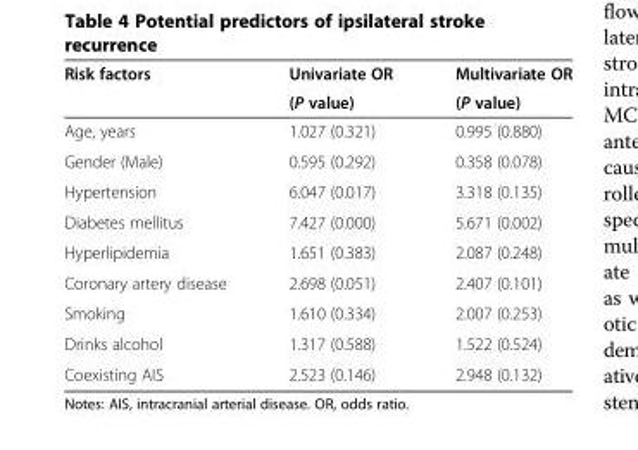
<table><thead><tr><td rowspan="2">Risk factors</td><td rowspan="2">Univariate OR (P value)</td><td rowspan="2">Multivariate OR (P value)</td></tr><tr></tr></thead><tbody><tr><td>Age, years</td><td>1.027 (0.321)</td><td>0.995 (0.880)</td></tr><tr><td>Gender (Male)</td><td>0.595 (0.292)</td><td>0.358 (0.078)</td></tr><tr><td>Hypertension</td><td>6.047 (0.017)</td><td>3.318 (0.135)</td></tr><tr><td>Diabetes mellitus</td><td>7.427 (0.000)</td><td>5.671 (0.002)</td></tr><tr><td>Hyperlipidemia</td><td>1.651 (0.383)</td><td>2.087 (0.248)</td></tr><tr><td>Coronary artery disease</td><td>2.698 (0.051)</td><td>2.407 (0.101)</td></tr><tr><td>Smoking</td><td>1.610 (0.334)</td><td>2.007 (0.253)</td></tr><tr><td>Drinks alcohol</td><td>1.317 (0.588)</td><td>1.522 (0.524)</td></tr><tr><td>Coexisting AIS</td><td>2.523 (0.146)</td><td>2.948 (0.132)</td></tr></tbody></table>